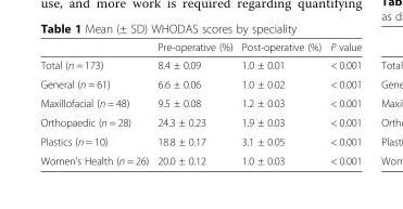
<table><thead><tr><td></td><td>Pre-operative (%)</td><td>Post-operative (%)</td><td>P value</td></tr></thead><tbody><tr><td>Total (n = 173)</td><td>8.4 ± 0.09</td><td>1.0 ± 0.01</td><td>&lt; 0.001</td></tr><tr><td>General (n = 61)</td><td>6.6 ± 0.06</td><td>1.0 ± 0.02</td><td>&lt; 0.001</td></tr><tr><td>Maxillofacial (n = 48)</td><td>9.5 ± 0.08</td><td>1.2 ± 0.03</td><td>&lt; 0.001</td></tr><tr><td>Orthopaedic (n = 28)</td><td>24.3 ± 0.23</td><td>1.9 ± 0.03</td><td>&lt; 0.001</td></tr><tr><td>Plastics (n = 10)</td><td>18.8 ± 0.17</td><td>3.1 ± 0.05</td><td>&lt; 0.001</td></tr><tr><td>Women’s Health (n = 26)</td><td>20.0 ± 0.12</td><td>1.0 ± 0.03</td><td>&lt; 0.001</td></tr></tbody></table>